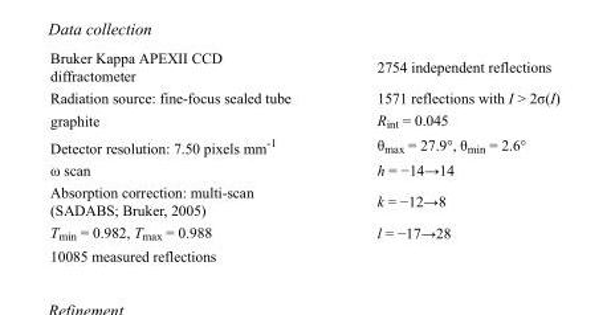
<table><tbody><tr><td>Bruker Kappa APEXII CCD diffractometer</td><td>2754 independent reflections</td></tr><tr><td>Radiation source: fine-focus sealed tube</td><td>1571 reflections with I &gt; 2σ(I)</td></tr><tr><td>graphite</td><td>R<sub>int</sub> = 0.045</td></tr><tr><td>Detector resolution: 7.50 pixels mm<sup>-1</sup></td><td>θ<sub>max</sub> = 27.9°, θ<sub>min</sub> = 2.6°</td></tr><tr><td>ω scan</td><td>h = −14→14</td></tr><tr><td>Absorption correction: multi-scan (SADABS; Bruker, 2005)</td><td>k = −12→8</td></tr><tr><td>T<sub>min</sub> = 0.982, T<sub>max</sub> = 0.988</td><td>l = −17→28</td></tr><tr><td>10085 measured reflections</td><td></td></tr></tbody></table>